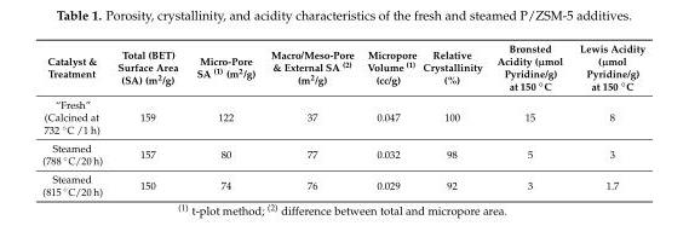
<table><thead><tr><td>Catalyst &amp; Treatment</td><td>Total (BET) Surface Area (SA) (m<sup>2</sup>/g)</td><td>Micro-Pore SA <sup>(1)</sup> (m<sup>2</sup>/g)</td><td>Macro/Meso-Pore &amp; External SA <sup>(2)</sup> (m<sup>2</sup>/g)</td><td>Micropore Volume <sup>(1)</sup> (cc/g)</td><td>Relative Crystallinity (%)</td><td>Brønsted Acidity (µmol Pyridine/g) at 150 ◦C</td><td>Lewis Acidity (µmol Pyridine/g) at 150 ◦C</td></tr></thead><tbody><tr><td>“Fresh” (Calcined at 732 ◦C /1 h)</td><td>159</td><td>122</td><td>37</td><td>0.047</td><td>100</td><td>15</td><td>8</td></tr><tr><td>Steamed (788 ◦C/20 h)</td><td>157</td><td>80</td><td>77</td><td>0.032</td><td>98</td><td>5</td><td>3</td></tr><tr><td>Steamed (815 ◦C/20 h)</td><td>150</td><td>74</td><td>76</td><td>0.029</td><td>92</td><td>3</td><td>1.7</td></tr></tbody></table>